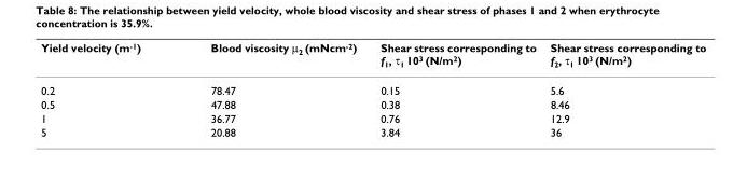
<table><thead><tr><td>Yield velocity (m<sup>-1</sup>)</td><td>Blood viscosity μ<sub>2</sub> (mNcm<sup>-2</sup>)</td><td>Shear stress corresponding to f<sub>1</sub>, τ<sub>1</sub> 10<sup>3</sup> (N/m<sup>2</sup>)</td><td>Shear stress corresponding to f<sub>2</sub>, τ<sub>1</sub> 10<sup>3</sup> (N/m<sup>2</sup>)</td></tr></thead><tbody><tr><td>0.2</td><td>78.47</td><td>0.15</td><td>5.6</td></tr><tr><td>0.5</td><td>47.88</td><td>0.38</td><td>8.46</td></tr><tr><td>1</td><td>36.77</td><td>0.76</td><td>12.9</td></tr><tr><td>5</td><td>20.88</td><td>3.84</td><td>36</td></tr></tbody></table>